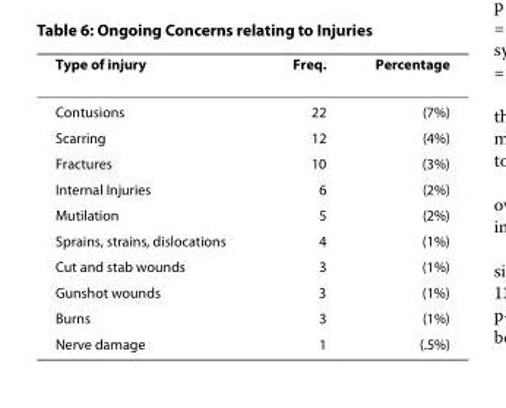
<table><thead><tr><td>Type of injury</td><td>Freq.</td><td>Percentage</td></tr></thead><tbody><tr><td>Contusions</td><td>22</td><td>(7%)</td></tr><tr><td>Scarring</td><td>12</td><td>(4%)</td></tr><tr><td>Fractures</td><td>10</td><td>(3%)</td></tr><tr><td>Internal Injuries</td><td>6</td><td>(2%)</td></tr><tr><td>Mutilation</td><td>5</td><td>(2%)</td></tr><tr><td>Sprains, strains, dislocations</td><td>4</td><td>(1%)</td></tr><tr><td>Cut and stab wounds</td><td>3</td><td>(1%)</td></tr><tr><td>Gunshot wounds</td><td>3</td><td>(1%)</td></tr><tr><td>Burns</td><td>3</td><td>(1%)</td></tr><tr><td>Nerve damage</td><td>1</td><td>(.5%)</td></tr></tbody></table>